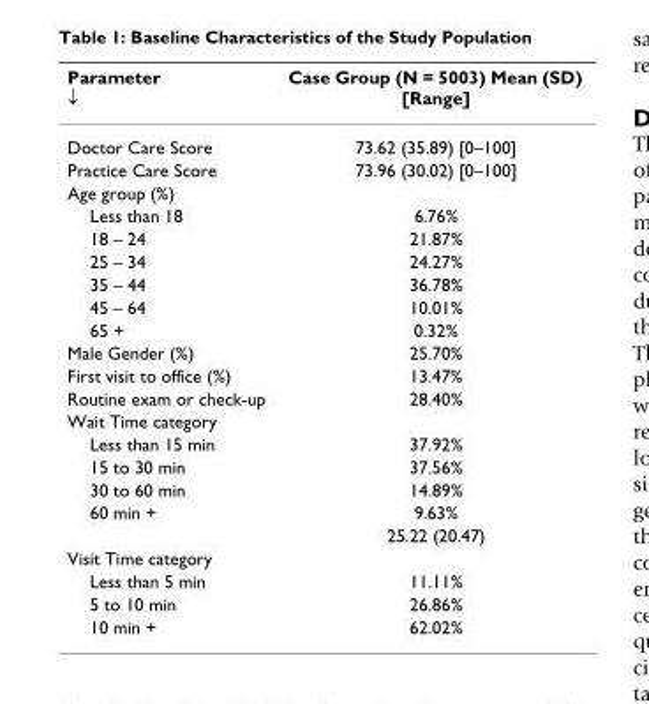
<table><thead><tr><td>Parameter ↓</td><td>Case Group (N = 5003) Mean (SD) [Range]</td></tr></thead><tbody><tr><td>Doctor Care Score</td><td>73.62 (35.89) [0–100]</td></tr><tr><td>Practice Care Score</td><td>73.96 (30.02) [0–100]</td></tr><tr><td colspan="2">Age group (%)</td></tr><tr><td>Less than 18</td><td>6.76%</td></tr><tr><td>18 – 24</td><td>21.87%</td></tr><tr><td>25 – 34</td><td>24.27%</td></tr><tr><td>35 – 44</td><td>36.78%</td></tr><tr><td>45 – 64</td><td>10.01%</td></tr><tr><td>65 +</td><td>0.32%</td></tr><tr><td>Male Gender (%)</td><td>25.70%</td></tr><tr><td>First visit to office (%)</td><td>13.47%</td></tr><tr><td>Routine exam or check-up</td><td>28.40%</td></tr><tr><td colspan="2">Wait Time category</td></tr><tr><td>Less than 15 min</td><td>37.92%</td></tr><tr><td>15 to 30 min</td><td>37.56%</td></tr><tr><td>30 to 60 min</td><td>14.89%</td></tr><tr><td rowspan="2">60 min +</td><td>9.63%</td></tr><tr><td>25.22 (20.47)</td></tr><tr><td colspan="2">Visit Time category</td></tr><tr><td>Less than 5 min</td><td>11.11%</td></tr><tr><td>5 to 10 min</td><td>26.86%</td></tr><tr><td>10 min +</td><td>62.02%</td></tr></tbody></table>